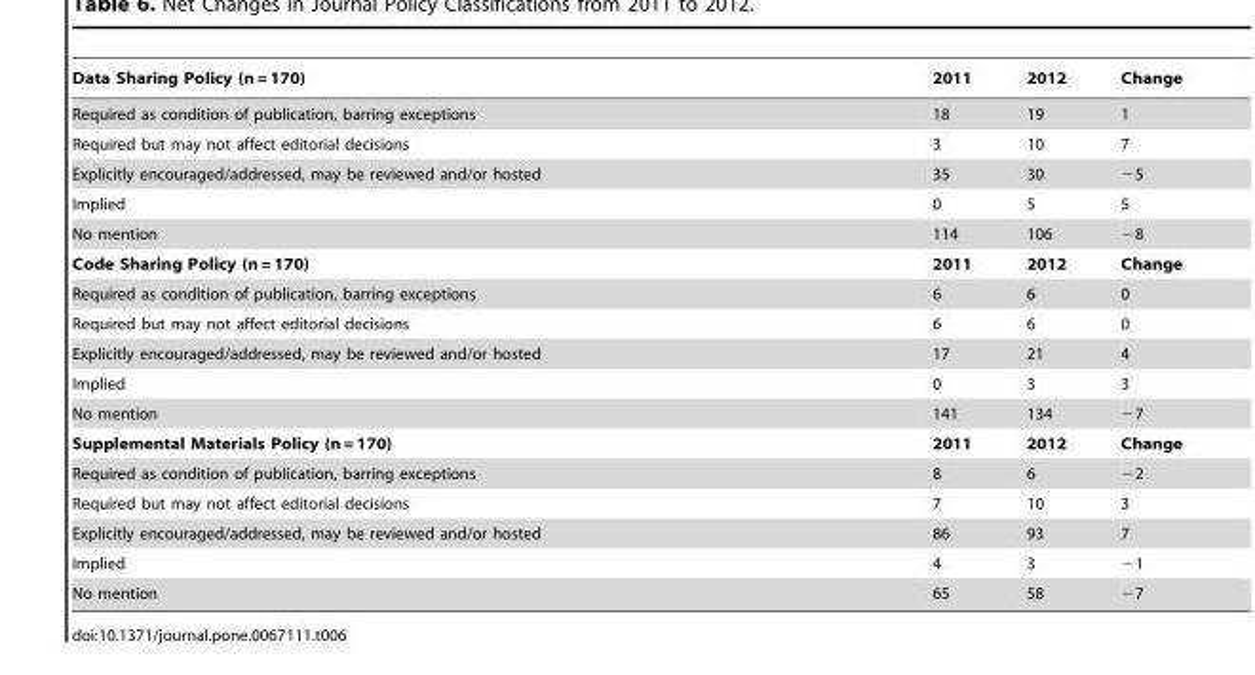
<table><thead><tr><td>Data Sharing Policy (n = 170)</td><td>2011</td><td>2012</td><td>Change</td></tr></thead><tbody><tr><td>Required as condition of publication, barring exceptions</td><td>18</td><td>19</td><td>1</td></tr><tr><td>Required but may not affect editorial decisions</td><td>3</td><td>10</td><td>7</td></tr><tr><td>Explicitly encouraged/addressed, may be reviewed and/or hosted</td><td>35</td><td>30</td><td>−5</td></tr><tr><td>Implied</td><td>0</td><td>5</td><td>5</td></tr><tr><td>No mention</td><td>114</td><td>106</td><td>−8</td></tr><tr><td>Code Sharing Policy (n = 170)</td><td>2011</td><td>2012</td><td>Change</td></tr><tr><td>Required as condition of publication, barring exceptions</td><td>6</td><td>6</td><td>0</td></tr><tr><td>Required but may not affect editorial decisions</td><td>6</td><td>6</td><td>0</td></tr><tr><td>Explicitly encouraged/addressed, may be reviewed and/or hosted</td><td>17</td><td>21</td><td>4</td></tr><tr><td>Implied</td><td>0</td><td>3</td><td>3</td></tr><tr><td>No mention</td><td>141</td><td>134</td><td>−7</td></tr><tr><td>Supplemental Materials Policy (n = 170)</td><td>2011</td><td>2012</td><td>Change</td></tr><tr><td>Required as condition of publication, barring exceptions</td><td>8</td><td>6</td><td>−2</td></tr><tr><td>Required but may not affect editorial decisions</td><td>7</td><td>10</td><td>3</td></tr><tr><td>Explicitly encouraged/addressed, may be reviewed and/or hosted</td><td>86</td><td>93</td><td>7</td></tr><tr><td>Implied</td><td>4</td><td>3</td><td>−1</td></tr><tr><td>No mention</td><td>65</td><td>58</td><td>−7</td></tr></tbody></table>